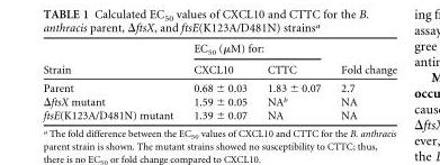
<table><thead><tr><td rowspan="2">Strain</td><td colspan="2">EC<sub>50</sub> (µM) for:</td><td rowspan="2">Fold change</td></tr><tr><td>CXCL10</td><td>CTTC</td></tr></thead><tbody><tr><td>Parent</td><td>0.68 ± 0.03</td><td>1.83 ± 0.07</td><td>2.7</td></tr><tr><td>ΔftsX mutant</td><td>1.59 ± 0.05</td><td>NA<sup>b</sup></td><td>NA</td></tr><tr><td>ftsE(K123A/D481N) mutant</td><td>1.39 ± 0.07</td><td>NA</td><td>NA</td></tr></tbody></table>